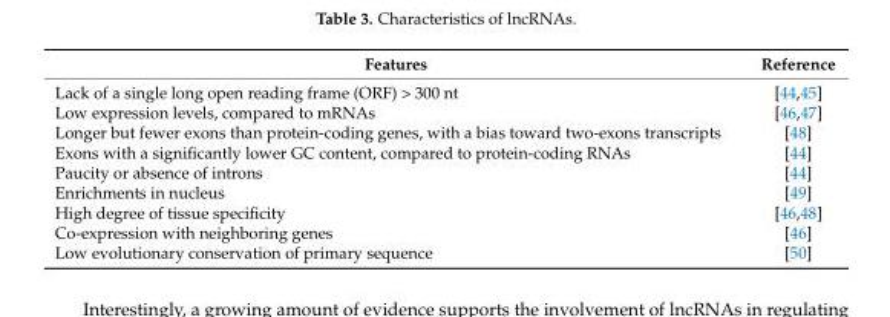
<table><thead><tr><td>Features</td><td>Reference</td></tr></thead><tbody><tr><td>Lack of a single long open reading frame (ORF) &gt; 300 nt</td><td>[44,45]</td></tr><tr><td>Low expression levels, compared to mRNAs</td><td>[46,47]</td></tr><tr><td>Longer but fewer exons than protein-coding genes, with a bias toward two-exons transcripts</td><td>[48]</td></tr><tr><td>Exons with a significantly lower GC content, compared to protein-coding RNAs</td><td>[44]</td></tr><tr><td>Paucity or absence of introns</td><td>[44]</td></tr><tr><td>Enrichments in nucleus</td><td>[49]</td></tr><tr><td>High degree of tissue specificity</td><td>[46,48]</td></tr><tr><td>Co-expression with neighboring genes</td><td>[46]</td></tr><tr><td>Low evolutionary conservation of primary sequence</td><td>[50]</td></tr></tbody></table>